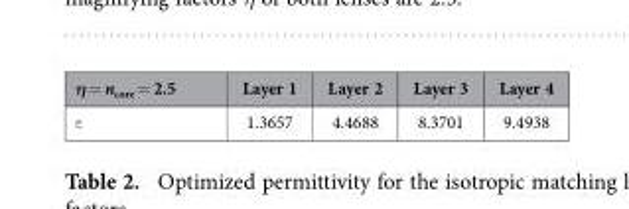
<table><thead><tr><td>η = n<sub>core</sub> = 2.5</td><td>Layer 1</td><td>Layer 2</td><td>Layer 3</td><td>Layer 4</td></tr></thead><tbody><tr><td>ε</td><td>1.3657</td><td>4.4688</td><td>8.3701</td><td>9.4938</td></tr></tbody></table>